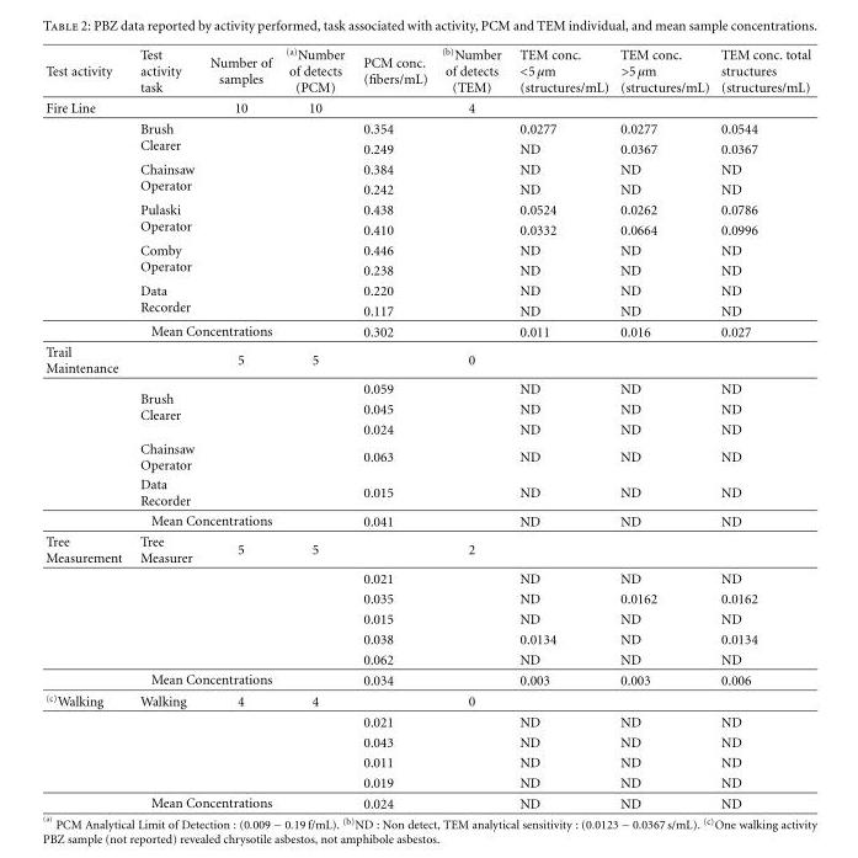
<table><thead><tr><td>Test activity</td><td>Test activity task</td><td>Number of samples</td><td><sup>(a)</sup>Number of detects (PCM)</td><td>PCM conc. (fibers/mL)</td><td><sup>(b)</sup>Number of detects (TEM)</td><td>TEM conc. &lt;5 µm (structures/mL)</td><td>TEM conc. &gt;5 µm (structures/mL)</td><td>TEM conc. total structures (structures/mL)</td></tr></thead><tbody><tr><td rowspan="12">Fire Line</td><td></td><td>10</td><td>10</td><td></td><td>4</td><td></td><td></td><td></td></tr><tr><td rowspan="2">Brush Clearer</td><td></td><td></td><td>0.354</td><td></td><td>0.0277</td><td>0.0277</td><td>0.0544</td></tr><tr><td></td><td></td><td>0.249</td><td></td><td>ND</td><td>0.0367</td><td>0.0367</td></tr><tr><td rowspan="2">Chainsaw Operator</td><td></td><td></td><td>0.384</td><td></td><td>ND</td><td>ND</td><td>ND</td></tr><tr><td></td><td></td><td>0.242</td><td></td><td>ND</td><td>ND</td><td>ND</td></tr><tr><td rowspan="2">Pulaski Operator</td><td></td><td></td><td>0.438</td><td></td><td>0.0524</td><td>0.0262</td><td>0.0786</td></tr><tr><td></td><td></td><td>0.410</td><td></td><td>0.0332</td><td>0.0664</td><td>0.0996</td></tr><tr><td rowspan="2">Comby Operator</td><td></td><td></td><td>0.446</td><td></td><td>ND</td><td>ND</td><td>ND</td></tr><tr><td></td><td></td><td>0.238</td><td></td><td>ND</td><td>ND</td><td>ND</td></tr><tr><td rowspan="2">Data Recorder</td><td></td><td></td><td>0.220</td><td></td><td>ND</td><td>ND</td><td>ND</td></tr><tr><td></td><td></td><td>0.117</td><td></td><td>ND</td><td>ND</td><td>ND</td></tr><tr><td colspan="2">Mean Concentrations</td><td></td><td>0.302</td><td></td><td>0.011</td><td>0.016</td><td>0.027</td></tr><tr><td rowspan="7">Trail Maintenance</td><td></td><td>5</td><td>5</td><td></td><td>0</td><td></td><td></td><td></td></tr><tr><td rowspan="3">Brush Clearer</td><td></td><td></td><td>0.059</td><td></td><td>ND</td><td>ND</td><td>ND</td></tr><tr><td></td><td></td><td>0.045</td><td></td><td>ND</td><td>ND</td><td>ND</td></tr><tr><td></td><td></td><td>0.024</td><td></td><td>ND</td><td>ND</td><td>ND</td></tr><tr><td>Chainsaw Operator</td><td></td><td></td><td>0.063</td><td></td><td>ND</td><td>ND</td><td>ND</td></tr><tr><td>Data Recorder</td><td></td><td></td><td>0.015</td><td></td><td>ND</td><td>ND</td><td>ND</td></tr><tr><td colspan="2">Mean Concentrations</td><td></td><td>0.041</td><td></td><td>ND</td><td>ND</td><td>ND</td></tr><tr><td rowspan="7">Tree Measurement</td><td>Tree Measurer</td><td>5</td><td>5</td><td></td><td>2</td><td></td><td></td><td></td></tr><tr><td></td><td></td><td></td><td>0.021</td><td></td><td>ND</td><td>ND</td><td>ND</td></tr><tr><td></td><td></td><td></td><td>0.035</td><td></td><td>ND</td><td>0.0162</td><td>0.0162</td></tr><tr><td></td><td></td><td></td><td>0.015</td><td></td><td>ND</td><td>ND</td><td>ND</td></tr><tr><td></td><td></td><td></td><td>0.038</td><td></td><td>0.0134</td><td>ND</td><td>0.0134</td></tr><tr><td></td><td></td><td></td><td>0.062</td><td></td><td>ND</td><td>ND</td><td>ND</td></tr><tr><td colspan="2">Mean Concentrations</td><td></td><td>0.034</td><td></td><td>0.003</td><td>0.003</td><td>0.006</td></tr><tr><td rowspan="6"><sup>(c)</sup>Walking</td><td>Walking</td><td>4</td><td>4</td><td></td><td>0</td><td></td><td></td><td></td></tr><tr><td></td><td></td><td></td><td>0.021</td><td></td><td>ND</td><td>ND</td><td>ND</td></tr><tr><td></td><td></td><td></td><td>0.043</td><td></td><td>ND</td><td>ND</td><td>ND</td></tr><tr><td></td><td></td><td></td><td>0.011</td><td></td><td>ND</td><td>ND</td><td>ND</td></tr><tr><td></td><td></td><td></td><td>0.019</td><td></td><td>ND</td><td>ND</td><td>ND</td></tr><tr><td colspan="2">Mean Concentrations</td><td></td><td>0.024</td><td></td><td>ND</td><td>ND</td><td>ND</td></tr></tbody></table>